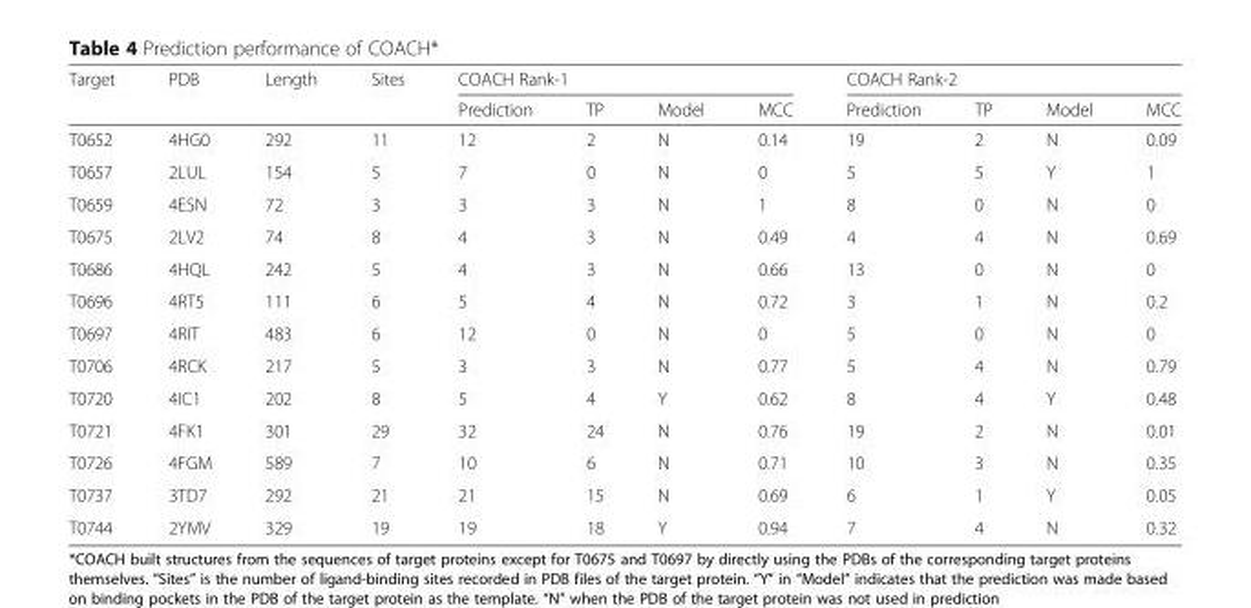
<table><thead><tr><td rowspan="2">Target</td><td rowspan="2">PDB</td><td rowspan="2">Length</td><td rowspan="2">Sites</td><td colspan="4">COACH Rank-1</td><td colspan="4">COACH Rank-2</td></tr><tr><td>Prediction</td><td>TP</td><td>Model</td><td>MCC</td><td>Prediction</td><td>TP</td><td>Model</td><td>MCC</td></tr></thead><tbody><tr><td>T0652</td><td>4HG0</td><td>292</td><td>11</td><td>12</td><td>2</td><td>N</td><td>0.14</td><td>19</td><td>2</td><td>N</td><td>0.09</td></tr><tr><td>T0657</td><td>2LUL</td><td>154</td><td>5</td><td>7</td><td>0</td><td>N</td><td>0</td><td>5</td><td>5</td><td>Y</td><td>1</td></tr><tr><td>T0659</td><td>4ESN</td><td>72</td><td>3</td><td>3</td><td>3</td><td>N</td><td>1</td><td>8</td><td>0</td><td>N</td><td>0</td></tr><tr><td>T0675</td><td>2LV2</td><td>74</td><td>8</td><td>4</td><td>3</td><td>N</td><td>0.49</td><td>4</td><td>4</td><td>N</td><td>0.69</td></tr><tr><td>T0686</td><td>4HQL</td><td>242</td><td>5</td><td>4</td><td>3</td><td>N</td><td>0.66</td><td>13</td><td>0</td><td>N</td><td>0</td></tr><tr><td>T0696</td><td>4RT5</td><td>111</td><td>6</td><td>5</td><td>4</td><td>N</td><td>0.72</td><td>3</td><td>1</td><td>N</td><td>0.2</td></tr><tr><td>T0697</td><td>4RIT</td><td>483</td><td>6</td><td>12</td><td>0</td><td>N</td><td>0</td><td>5</td><td>0</td><td>N</td><td>0</td></tr><tr><td>T0706</td><td>4RCK</td><td>217</td><td>5</td><td>3</td><td>3</td><td>N</td><td>0.77</td><td>5</td><td>4</td><td>N</td><td>0.79</td></tr><tr><td>T0720</td><td>4IC1</td><td>202</td><td>8</td><td>5</td><td>4</td><td>Y</td><td>0.62</td><td>8</td><td>4</td><td>Y</td><td>0.48</td></tr><tr><td>T0721</td><td>4FK1</td><td>301</td><td>29</td><td>32</td><td>24</td><td>N</td><td>0.76</td><td>19</td><td>2</td><td>N</td><td>0.01</td></tr><tr><td>T0726</td><td>4FGM</td><td>589</td><td>7</td><td>10</td><td>6</td><td>N</td><td>0.71</td><td>10</td><td>3</td><td>N</td><td>0.35</td></tr><tr><td>T0737</td><td>3TD7</td><td>292</td><td>21</td><td>21</td><td>15</td><td>N</td><td>0.69</td><td>6</td><td>1</td><td>Y</td><td>0.05</td></tr><tr><td>T0744</td><td>2YMV</td><td>329</td><td>19</td><td>19</td><td>18</td><td>Y</td><td>0.94</td><td>7</td><td>4</td><td>N</td><td>0.32</td></tr></tbody></table>